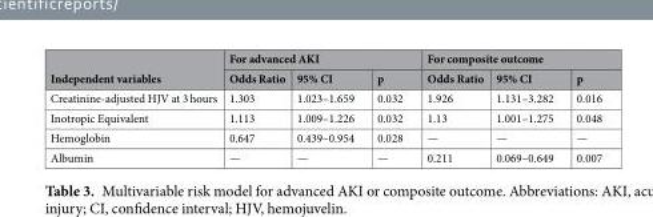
<table><thead><tr><td rowspan="2">Independent variables</td><td colspan="3">For advanced AKI</td><td colspan="3">For composite outcome</td></tr><tr><td>Odds Ratio</td><td>95% CI</td><td>p</td><td>Odds Ratio</td><td>95% CI</td><td>p</td></tr></thead><tbody><tr><td>Creatinine-adjusted HJV at 3 hours</td><td>1.303</td><td>1.023–1.659</td><td>0.032</td><td>1.926</td><td>1.131–3.282</td><td>0.016</td></tr><tr><td>Inotropic Equivalent</td><td>1.113</td><td>1.009–1.226</td><td>0.032</td><td>1.13</td><td>1.001–1.275</td><td>0.048</td></tr><tr><td>Hemoglobin</td><td>0.647</td><td>0.439–0.954</td><td>0.028</td><td>—</td><td>—</td><td>—</td></tr><tr><td>Albumin</td><td>—</td><td>—</td><td>—</td><td>0.211</td><td>0.069–0.649</td><td>0.007</td></tr></tbody></table>